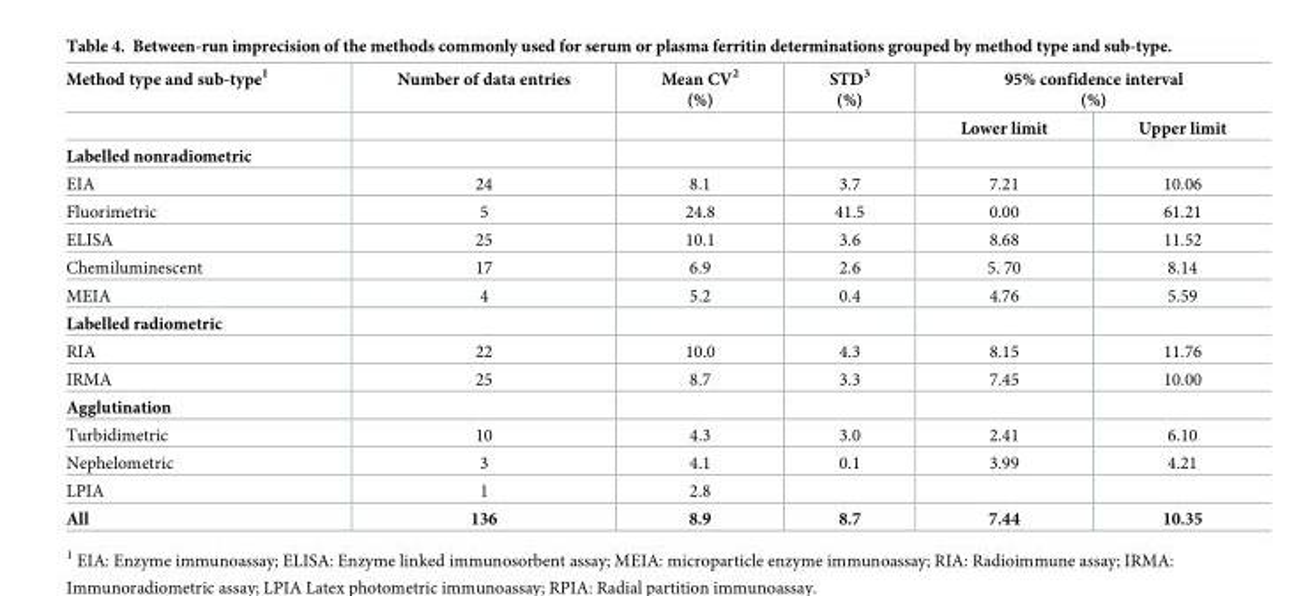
<table><thead><tr><td rowspan="2">Method type and sub-type<sup>1</sup></td><td rowspan="2">Number of data entries</td><td rowspan="2">Mean CV<sup>2</sup> (%)</td><td rowspan="2">STD<sup>3</sup> (%)</td><td colspan="2">95% confidence interval (%)</td></tr><tr><td>Lower limit</td><td>Upper limit</td></tr></thead><tbody><tr><td colspan="6">Labelled nonradiometric</td></tr><tr><td>EIA</td><td>24</td><td>8.1</td><td>3.7</td><td>7.21</td><td>10.06</td></tr><tr><td>Fluorimetric</td><td>5</td><td>24.8</td><td>41.5</td><td>0.00</td><td>61.21</td></tr><tr><td>ELISA</td><td>25</td><td>10.1</td><td>3.6</td><td>8.68</td><td>11.52</td></tr><tr><td>Chemiluminescent</td><td>17</td><td>6.9</td><td>2.6</td><td>5. 70</td><td>8.14</td></tr><tr><td>MEIA</td><td>4</td><td>5.2</td><td>0.4</td><td>4.76</td><td>5.59</td></tr><tr><td colspan="6">Labelled radiometric</td></tr><tr><td>RIA</td><td>22</td><td>10.0</td><td>4.3</td><td>8.15</td><td>11.76</td></tr><tr><td>IRMA</td><td>25</td><td>8.7</td><td>3.3</td><td>7.45</td><td>10.00</td></tr><tr><td colspan="6">Agglutination</td></tr><tr><td>Turbidimetric</td><td>10</td><td>4.3</td><td>3.0</td><td>2.41</td><td>6.10</td></tr><tr><td>Nephelometric</td><td>3</td><td>4.1</td><td>0.1</td><td>3.99</td><td>4.21</td></tr><tr><td>LPIA</td><td>1</td><td>2.8</td><td></td><td></td><td></td></tr><tr><td>All</td><td>136</td><td>8.9</td><td>8.7</td><td>7.44</td><td>10.35</td></tr></tbody></table>